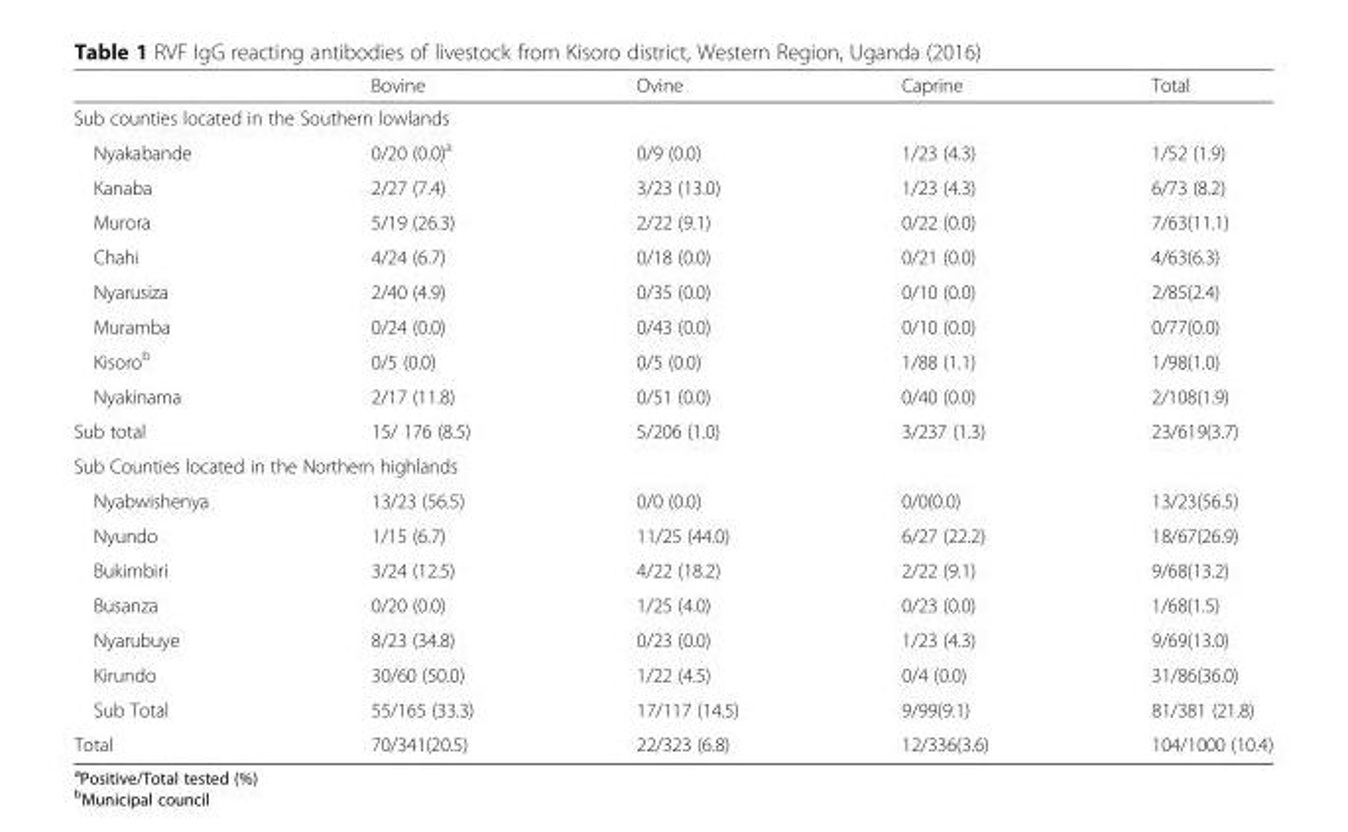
<table><thead><tr><td></td><td>Bovine</td><td>Ovine</td><td>Caprine</td><td>Total</td></tr></thead><tbody><tr><td colspan="5">Sub counties located in the Southern lowlands</td></tr><tr><td>Nyakabande</td><td>0/20 (0.0)<sup>a</sup></td><td>0/9 (0.0)</td><td>1/23 (4.3)</td><td>1/52 (1.9)</td></tr><tr><td>Kanaba</td><td>2/27 (7.4)</td><td>3/23 (13.0)</td><td>1/23 (4.3)</td><td>6/73 (8.2)</td></tr><tr><td>Murora</td><td>5/19 (26.3)</td><td>2/22 (9.1)</td><td>0/22 (0.0)</td><td>7/63(11.1)</td></tr><tr><td>Chahi</td><td>4/24 (6.7)</td><td>0/18 (0.0)</td><td>0/21 (0.0)</td><td>4/63(6.3)</td></tr><tr><td>Nyarusiza</td><td>2/40 (4.9)</td><td>0/35 (0.0)</td><td>0/10 (0.0)</td><td>2/85(2.4)</td></tr><tr><td>Muramba</td><td>0/24 (0.0)</td><td>0/43 (0.0)</td><td>0/10 (0.0)</td><td>0/77(0.0)</td></tr><tr><td>Kisoro<sup>b</sup></td><td>0/5 (0.0)</td><td>0/5 (0.0)</td><td>1/88 (1.1)</td><td>1/98(1.0)</td></tr><tr><td>Nyakinama</td><td>2/17 (11.8)</td><td>0/51 (0.0)</td><td>0/40 (0.0)</td><td>2/108(1.9)</td></tr><tr><td>Sub total</td><td>15/ 176 (8.5)</td><td>5/206 (1.0)</td><td>3/237 (1.3)</td><td>23/619(3.7)</td></tr><tr><td colspan="5">Sub Counties located in the Northern highlands</td></tr><tr><td>Nyabwishenya</td><td>13/23 (56.5)</td><td>0/0 (0.0)</td><td>0/0(0.0)</td><td>13/23(56.5)</td></tr><tr><td>Nyundo</td><td>1/15 (6.7)</td><td>11/25 (44.0)</td><td>6/27 (22.2)</td><td>18/67(26.9)</td></tr><tr><td>Bukimbiri</td><td>3/24 (12.5)</td><td>4/22 (18.2)</td><td>2/22 (9.1)</td><td>9/68(13.2)</td></tr><tr><td>Busanza</td><td>0/20 (0.0)</td><td>1/25 (4.0)</td><td>0/23 (0.0)</td><td>1/68(1.5)</td></tr><tr><td>Nyarubuye</td><td>8/23 (34.8)</td><td>0/23 (0.0)</td><td>1/23 (4.3)</td><td>9/69(13.0)</td></tr><tr><td>Kirundo</td><td>30/60 (50.0)</td><td>1/22 (4.5)</td><td>0/4 (0.0)</td><td>31/86(36.0)</td></tr><tr><td>Sub Total</td><td>55/165 (33.3)</td><td>17/117 (14.5)</td><td>9/99(9.1)</td><td>81/381 (21.8)</td></tr><tr><td>Total</td><td>70/341(20.5)</td><td>22/323 (6.8)</td><td>12/336(3.6)</td><td>104/1000 (10.4)</td></tr></tbody></table>